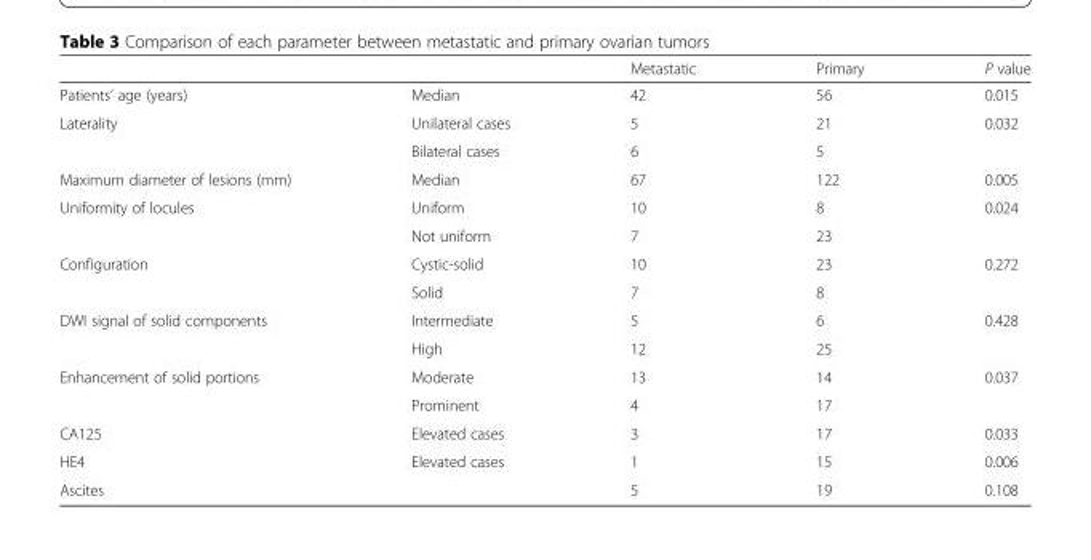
<table><thead><tr><td></td><td></td><td>Metastatic</td><td>Primary</td><td>P value</td></tr></thead><tbody><tr><td>Patients’ age (years)</td><td>Median</td><td>42</td><td>56</td><td>0.015</td></tr><tr><td rowspan="2">Laterality</td><td>Unilateral cases</td><td>5</td><td>21</td><td>0.032</td></tr><tr><td>Bilateral cases</td><td>6</td><td>5</td><td></td></tr><tr><td>Maximum diameter of lesions (mm)</td><td>Median</td><td>67</td><td>122</td><td>0.005</td></tr><tr><td rowspan="2">Uniformity of locules</td><td>Uniform</td><td>10</td><td>8</td><td>0.024</td></tr><tr><td>Not uniform</td><td>7</td><td>23</td><td></td></tr><tr><td rowspan="2">Configuration</td><td>Cystic-solid</td><td>10</td><td>23</td><td>0.272</td></tr><tr><td>Solid</td><td>7</td><td>8</td><td></td></tr><tr><td rowspan="2">DWI signal of solid components</td><td>Intermediate</td><td>5</td><td>6</td><td>0.428</td></tr><tr><td>High</td><td>12</td><td>25</td><td></td></tr><tr><td rowspan="2">Enhancement of solid portions</td><td>Moderate</td><td>13</td><td>14</td><td>0.037</td></tr><tr><td>Prominent</td><td>4</td><td>17</td><td></td></tr><tr><td>CA125</td><td>Elevated cases</td><td>3</td><td>17</td><td>0.033</td></tr><tr><td>HE4</td><td>Elevated cases</td><td>1</td><td>15</td><td>0.006</td></tr><tr><td>Ascites</td><td></td><td>5</td><td>19</td><td>0.108</td></tr></tbody></table>